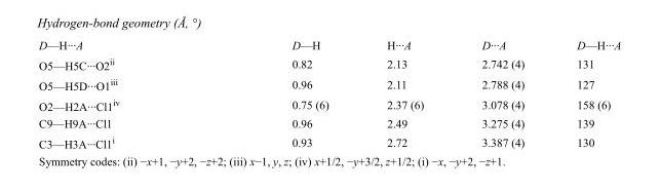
<table><tbody><tr><td>D—H···A</td><td>D—H</td><td>H···A</td><td>D···A</td><td>D—H···A</td></tr><tr><td>O5—H5C···O2<sup>ii</sup></td><td>0.82</td><td>2.13</td><td>2.742 (4)</td><td>131</td></tr><tr><td>O5—H5D···O1<sup>iii</sup></td><td>0.96</td><td>2.11</td><td>2.788 (4)</td><td>127</td></tr><tr><td>O2—H2A···Cl1<sup>iv</sup></td><td>0.75 (6)</td><td>2.37 (6)</td><td>3.078 (4)</td><td>158 (6)</td></tr><tr><td>C9—H9A···Cl1</td><td>0.96</td><td>2.49</td><td>3.275 (4)</td><td>139</td></tr><tr><td>C3—H3A···Cl1<sup>i</sup></td><td>0.93</td><td>2.72</td><td>3.387 (4)</td><td>130</td></tr></tbody></table>